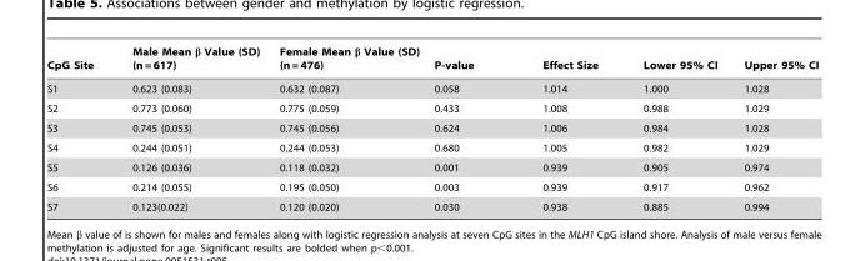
<table><thead><tr><td>CpG Site</td><td>Male Mean β Value (SD) (n = 617)</td><td>Female Mean β Value (SD) (n = 476)</td><td>P-value</td><td>Effect Size</td><td>Lower 95% CI</td><td>Upper 95% CI</td></tr></thead><tbody><tr><td>S1</td><td>0.623 (0.083)</td><td>0.632 (0.087)</td><td>0.058</td><td>1.014</td><td>1.000</td><td>1.028</td></tr><tr><td>S2</td><td>0.773 (0.060)</td><td>0.775 (0.059)</td><td>0.433</td><td>1.008</td><td>0.988</td><td>1.029</td></tr><tr><td>S3</td><td>0.745 (0.053)</td><td>0.745 (0.056)</td><td>0.624</td><td>1.006</td><td>0.984</td><td>1.028</td></tr><tr><td>S4</td><td>0.244 (0.051)</td><td>0.244 (0.053)</td><td>0.680</td><td>1.005</td><td>0.982</td><td>1.029</td></tr><tr><td>S5</td><td>0.126 (0.036)</td><td>0.118 (0.032)</td><td>0.001</td><td>0.939</td><td>0.905</td><td>0.974</td></tr><tr><td>S6</td><td>0.214 (0.055)</td><td>0.195 (0.050)</td><td>0.003</td><td>0.939</td><td>0.917</td><td>0.962</td></tr><tr><td>S7</td><td>0.123(0.022)</td><td>0.120 (0.020)</td><td>0.030</td><td>0.938</td><td>0.885</td><td>0.994</td></tr></tbody></table>